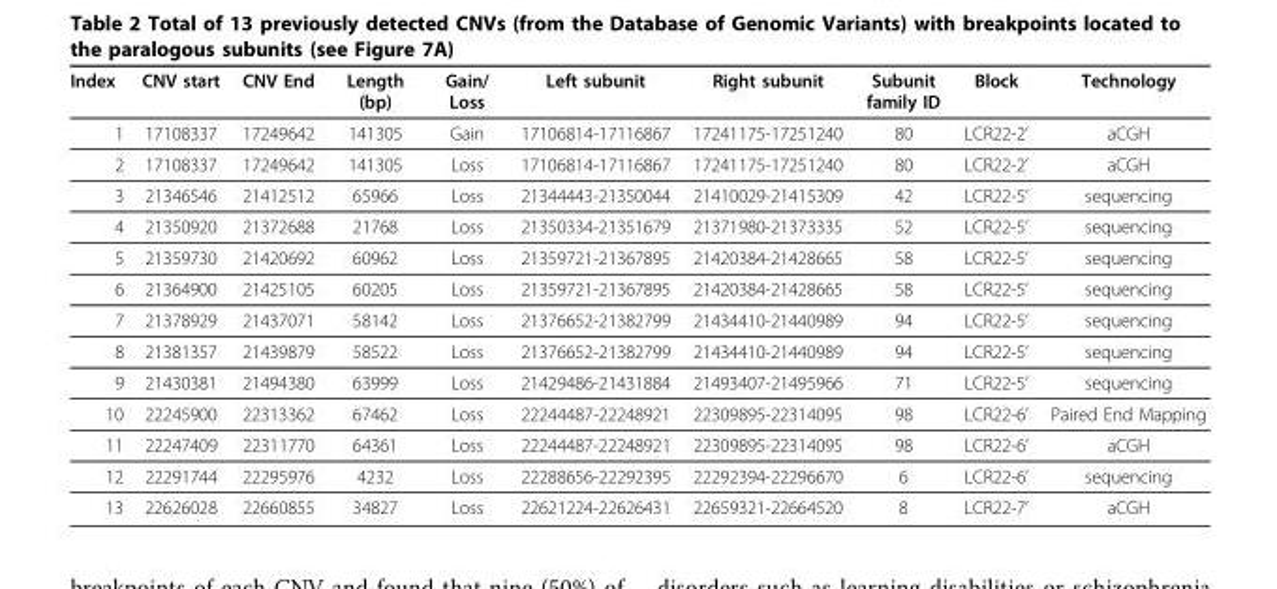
<table><thead><tr><td>Index</td><td>CNV start</td><td>CNV End</td><td>Length (bp)</td><td>Gain/ Loss</td><td>Left subunit</td><td>Right subunit</td><td>Subunit family ID</td><td>Block</td><td>Technology</td></tr></thead><tbody><tr><td>1</td><td>17108337</td><td>17249642</td><td>141305</td><td>Gain</td><td>17106814-17116867</td><td>17241175-17251240</td><td>80</td><td>LCR22-2’</td><td>aCGH</td></tr><tr><td>2</td><td>17108337</td><td>17249642</td><td>141305</td><td>Loss</td><td>17106814-17116867</td><td>17241175-17251240</td><td>80</td><td>LCR22-2’</td><td>aCGH</td></tr><tr><td>3</td><td>21346546</td><td>21412512</td><td>65966</td><td>Loss</td><td>21344443-21350044</td><td>21410029-21415309</td><td>42</td><td>LCR22-5’</td><td>sequencing</td></tr><tr><td>4</td><td>21350920</td><td>21372688</td><td>21768</td><td>Loss</td><td>21350334-21351679</td><td>21371980-21373335</td><td>52</td><td>LCR22-5’</td><td>sequencing</td></tr><tr><td>5</td><td>21359730</td><td>21420692</td><td>60962</td><td>Loss</td><td>21359721-21367895</td><td>21420384-21428665</td><td>58</td><td>LCR22-5’</td><td>sequencing</td></tr><tr><td>6</td><td>21364900</td><td>21425105</td><td>60205</td><td>Loss</td><td>21359721-21367895</td><td>21420384-21428665</td><td>58</td><td>LCR22-5’</td><td>sequencing</td></tr><tr><td>7</td><td>21378929</td><td>21437071</td><td>58142</td><td>Loss</td><td>21376652-21382799</td><td>21434410-21440989</td><td>94</td><td>LCR22-5’</td><td>sequencing</td></tr><tr><td>8</td><td>21381357</td><td>21439879</td><td>58522</td><td>Loss</td><td>21376652-21382799</td><td>21434410-21440989</td><td>94</td><td>LCR22-5’</td><td>sequencing</td></tr><tr><td>9</td><td>21430381</td><td>21494380</td><td>63999</td><td>Loss</td><td>21429486-21431884</td><td>21493407-21495966</td><td>71</td><td>LCR22-5’</td><td>sequencing</td></tr><tr><td>10</td><td>22245900</td><td>22313362</td><td>67462</td><td>Loss</td><td>22244487-22248921</td><td>22309895-22314095</td><td>98</td><td>LCR22-6’</td><td>Paired End Mapping</td></tr><tr><td>11</td><td>22247409</td><td>22311770</td><td>64361</td><td>Loss</td><td>22244487-22248921</td><td>22309895-22314095</td><td>98</td><td>LCR22-6’</td><td>aCGH</td></tr><tr><td>12</td><td>22291744</td><td>22295976</td><td>4232</td><td>Loss</td><td>22288656-22292395</td><td>22292394-22296670</td><td>6</td><td>LCR22-6’</td><td>sequencing</td></tr><tr><td>13</td><td>22626028</td><td>22660855</td><td>34827</td><td>Loss</td><td>22621224-22626431</td><td>22659321-22664520</td><td>8</td><td>LCR22-7’</td><td>aCGH</td></tr></tbody></table>